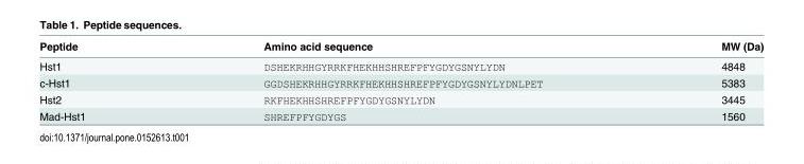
<table><thead><tr><td>Peptide</td><td>Amino acid sequence</td><td>MW (Da)</td></tr></thead><tbody><tr><td>Hst1</td><td>DSHEKRHHGYRRKFHEKHHSHREFPFYGDYGSNYLYDN</td><td>4848</td></tr><tr><td>c-Hst1</td><td>GGDSHEKRHHGYRRKFHEKHHSHREFPFYGDYGSNYLYDNLPET</td><td>5383</td></tr><tr><td>Hst2</td><td>RKFHEKHHSHREFPFYGDYGSNYLYDN</td><td>3445</td></tr><tr><td>Mad-Hst1</td><td>SHREFPFYGDYGS</td><td>1560</td></tr></tbody></table>